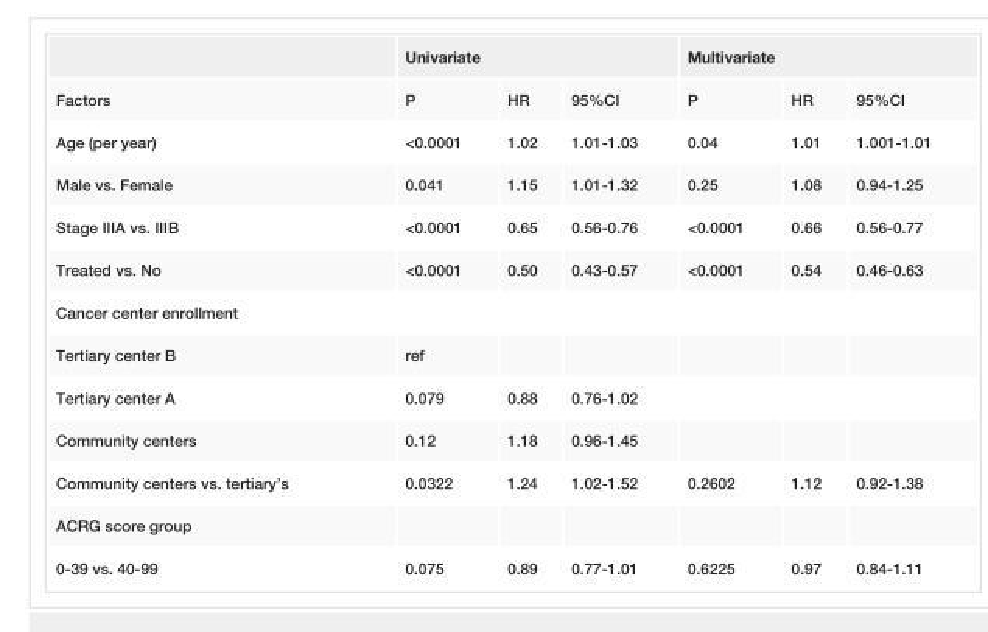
<table><thead><tr><td rowspan="2">Factors</td><td colspan="3">Univariate</td><td colspan="3">Multivariate</td></tr><tr><td>P</td><td>HR</td><td>95%CI</td><td>P</td><td>HR</td><td>95%CI</td></tr></thead><tbody><tr><td>Age (per year)</td><td>&lt;0.0001</td><td>1.02</td><td>1.01-1.03</td><td>0.04</td><td>1.01</td><td>1.001-1.01</td></tr><tr><td>Male vs. Female</td><td>0.041</td><td>1.15</td><td>1.01-1.32</td><td>0.25</td><td>1.08</td><td>0.94-1.25</td></tr><tr><td>Stage IIIA vs. IIIB</td><td>&lt;0.0001</td><td>0.65</td><td>0.56-0.76</td><td>&lt;0.0001</td><td>0.66</td><td>0.56-0.77</td></tr><tr><td>Treated vs. No</td><td>&lt;0.0001</td><td>0.50</td><td>0.43-0.57</td><td>&lt;0.0001</td><td>0.54</td><td>0.46-0.63</td></tr><tr><td colspan="7">Cancer center enrollment</td></tr><tr><td>Tertiary center B</td><td>ref</td><td></td><td></td><td></td><td></td><td></td></tr><tr><td>Tertiary center A</td><td>0.079</td><td>0.88</td><td>0.76-1.02</td><td></td><td></td><td></td></tr><tr><td>Community centers</td><td>0.12</td><td>1.18</td><td>0.96-1.45</td><td></td><td></td><td></td></tr><tr><td>Community centers vs. tertiary’s</td><td>0.0322</td><td>1.24</td><td>1.02-1.52</td><td>0.2602</td><td>1.12</td><td>0.92-1.38</td></tr><tr><td colspan="7">ACRG score group</td></tr><tr><td>0-39 vs. 40-99</td><td>0.075</td><td>0.89</td><td>0.77-1.01</td><td>0.6225</td><td>0.97</td><td>0.84-1.11</td></tr></tbody></table>